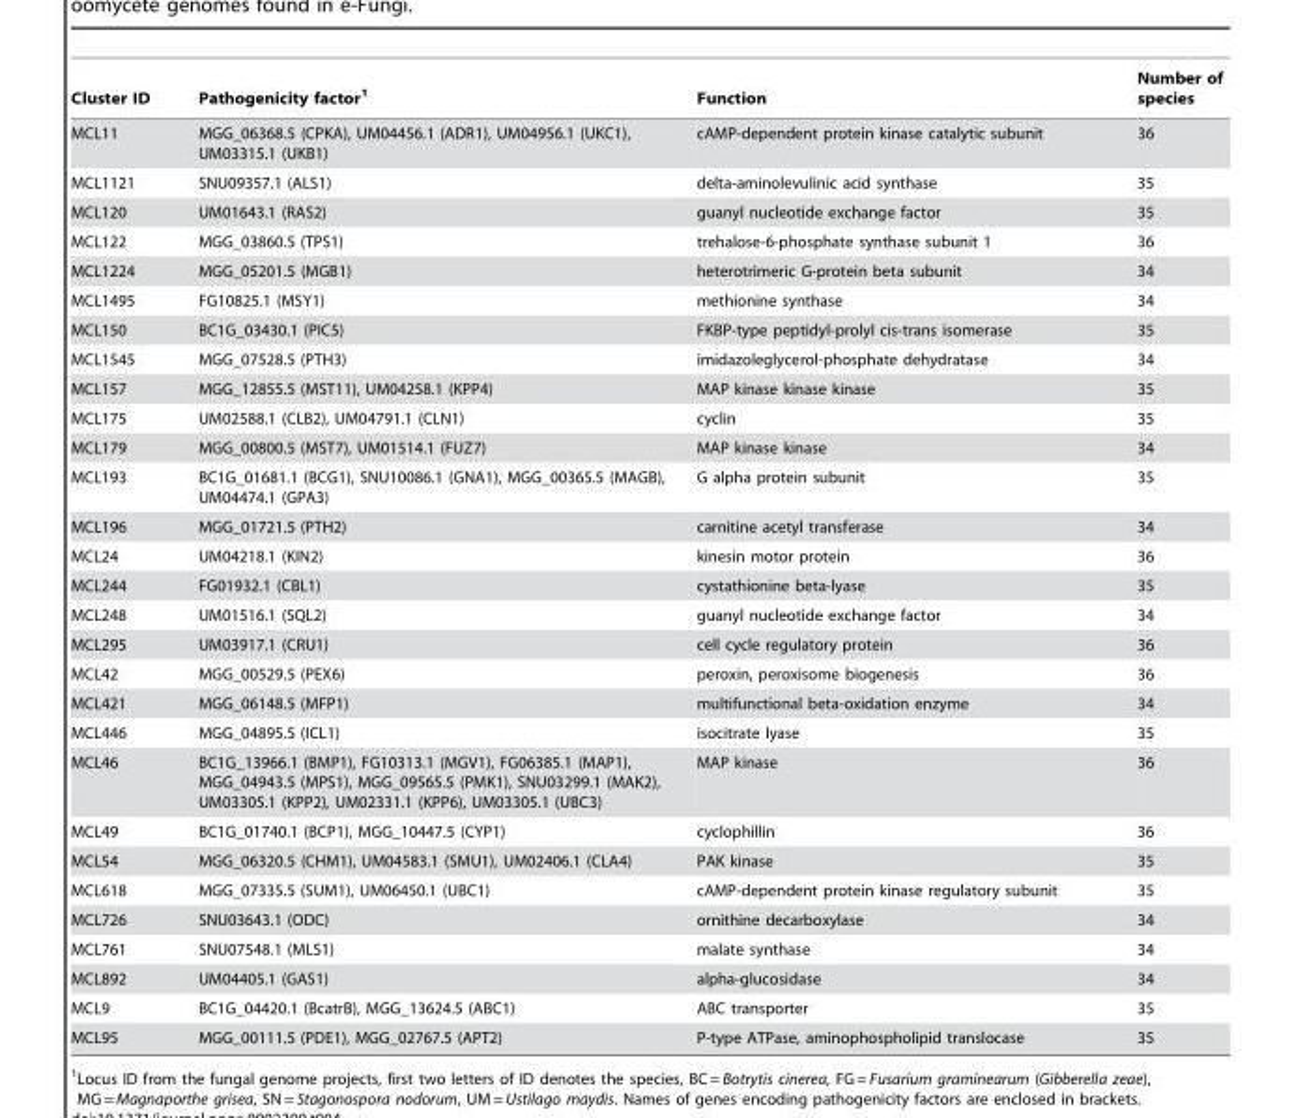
<table><thead><tr><td>Cluster ID</td><td>Pathogenicity factor<sup>1</sup></td><td>Function</td><td>Number of species</td></tr></thead><tbody><tr><td>MCL11</td><td>MGG_06368.5 (CPKA), UM04456.1 (ADR1), UM04956.1 (UKC1), UM03315.1 (UKB1)</td><td>cAMP-dependent protein kinase catalytic subunit</td><td>36</td></tr><tr><td>MCL1121</td><td>SNU09357.1 (ALS1)</td><td>delta-aminolevulinic acid synthase</td><td>35</td></tr><tr><td>MCL120</td><td>UM01643.1 (RAS2)</td><td>guanyl nucleotide exchange factor</td><td>35</td></tr><tr><td>MCL122</td><td>MGG_03860.5 (TPS1)</td><td>trehalose-6-phosphate synthase subunit 1</td><td>36</td></tr><tr><td>MCL1224</td><td>MGG_05201.5 (MGB1)</td><td>heterotrimeric G-protein beta subunit</td><td>34</td></tr><tr><td>MCL1495</td><td>FG10825.1 (MSY1)</td><td>methionine synthase</td><td>34</td></tr><tr><td>MCL150</td><td>BC1G_03430.1 (PIC5)</td><td>FKBP-type peptidyl-prolyl cis-trans isomerase</td><td>35</td></tr><tr><td>MCL1545</td><td>MGG_07528.5 (PTH3)</td><td>imidazoleglycerol-phosphate dehydratase</td><td>34</td></tr><tr><td>MCL157</td><td>MGG_12855.5 (MST11), UM04258.1 (KPP4)</td><td>MAP kinase kinase kinase</td><td>35</td></tr><tr><td>MCL175</td><td>UM02588.1 (CLB2), UM04791.1 (CLN1)</td><td>cyclin</td><td>35</td></tr><tr><td>MCL179</td><td>MGG_00800.5 (MST7), UM01514.1 (FUZ7)</td><td>MAP kinase kinase</td><td>34</td></tr><tr><td>MCL193</td><td>BC1G_01681.1 (BCG1), SNU10086.1 (GNA1), MGG_00365.5 (MAGB), UM04474.1 (GPA3)</td><td>G alpha protein subunit</td><td>35</td></tr><tr><td>MCL196</td><td>MGG_01721.5 (PTH2)</td><td>carnitine acetyl transferase</td><td>34</td></tr><tr><td>MCL24</td><td>UM04218.1 (KIN2)</td><td>kinesin motor protein</td><td>36</td></tr><tr><td>MCL244</td><td>FG01932.1 (CBL1)</td><td>cystathionine beta-lyase</td><td>35</td></tr><tr><td>MCL248</td><td>UM01516.1 (SQL2)</td><td>guanyl nucleotide exchange factor</td><td>34</td></tr><tr><td>MCL295</td><td>UM03917.1 (CRU1)</td><td>cell cycle regulatory protein</td><td>36</td></tr><tr><td>MCL42</td><td>MGG_00529.5 (PEX6)</td><td>peroxin, peroxisome biogenesis</td><td>36</td></tr><tr><td>MCL421</td><td>MGG_06148.5 (MFP1)</td><td>multifunctional beta-oxidation enzyme</td><td>34</td></tr><tr><td>MCL446</td><td>MGG_04895.5 (ICL1)</td><td>isocitrate lyase</td><td>35</td></tr><tr><td>MCL46</td><td>BC1G_13966.1 (BMP1), FG10313.1 (MGV1), FG06385.1 (MAP1), MGG_04943.5 (MPS1), MGG_09565.5 (PMK1), SNU03299.1 (MAK2), UM03305.1 (KPP2), UM02331.1 (KPP6), UM03305.1 (UBC3)</td><td>MAP kinase</td><td>36</td></tr><tr><td>MCL49</td><td>BC1G_01740.1 (BCP1), MGG_10447.5 (CYP1)</td><td>cyclophillin</td><td>36</td></tr><tr><td>MCL54</td><td>MGG_06320.5 (CHM1), UM04583.1 (SMU1), UM02406.1 (CLA4)</td><td>PAK kinase</td><td>35</td></tr><tr><td>MCL618</td><td>MGG_07335.5 (SUM1), UM06450.1 (UBC1)</td><td>cAMP-dependent protein kinase regulatory subunit</td><td>35</td></tr><tr><td>MCL726</td><td>SNU03643.1 (ODC)</td><td>ornithine decarboxylase</td><td>34</td></tr><tr><td>MCL761</td><td>SNU07548.1 (MLS1)</td><td>malate synthase</td><td>34</td></tr><tr><td>MCL892</td><td>UM04405.1 (GAS1)</td><td>alpha-glucosidase</td><td>34</td></tr><tr><td>MCL9</td><td>BC1G_04420.1 (BcatrB), MGG_13624.5 (ABC1)</td><td>ABC transporter</td><td>35</td></tr><tr><td>MCL95</td><td>MGG_00111.5 (PDE1), MGG_02767.5 (APT2)</td><td>P-type ATPase, aminophospholipid translocase</td><td>35</td></tr></tbody></table>